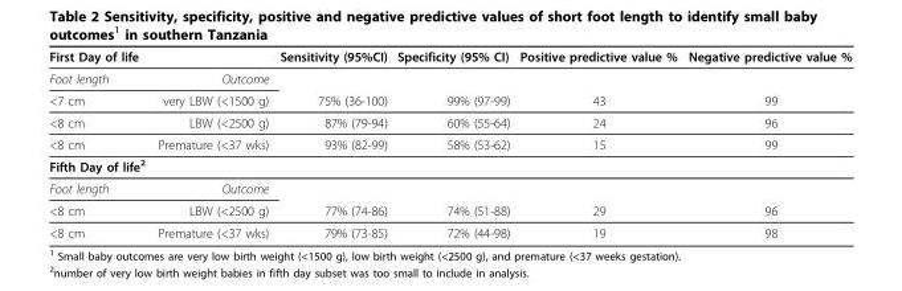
<table><thead><tr><td>First Day of life</td><td></td><td>Sensitivity (95%CI)</td><td>Specificity (95% CI)</td><td>Positive predictive value %</td><td>Negative predictive value %</td></tr></thead><tbody><tr><td>Foot length</td><td>Outcome</td><td></td><td></td><td></td><td></td></tr><tr><td>&lt;7 cm</td><td>very LBW (&lt;1500 g)</td><td>75% (36-100)</td><td>99% (97-99)</td><td>43</td><td>99</td></tr><tr><td>&lt;8 cm</td><td>LBW (&lt;2500 g)</td><td>87% (79-94)</td><td>60% (55-64)</td><td>24</td><td>96</td></tr><tr><td>&lt;8 cm</td><td>Premature (&lt;37 wks)</td><td>93% (82-99)</td><td>58% (53-62)</td><td>15</td><td>99</td></tr><tr><td colspan="6">Fifth Day of life<sup>2</sup></td></tr><tr><td>Foot length</td><td>Outcome</td><td></td><td></td><td></td><td></td></tr><tr><td>&lt;8 cm</td><td>LBW (&lt;2500 g)</td><td>77% (74-86)</td><td>74% (51-88)</td><td>29</td><td>96</td></tr><tr><td>&lt;8 cm</td><td>Premature (&lt;37 wks)</td><td>79% (73-85)</td><td>72% (44-98)</td><td>19</td><td>98</td></tr></tbody></table>